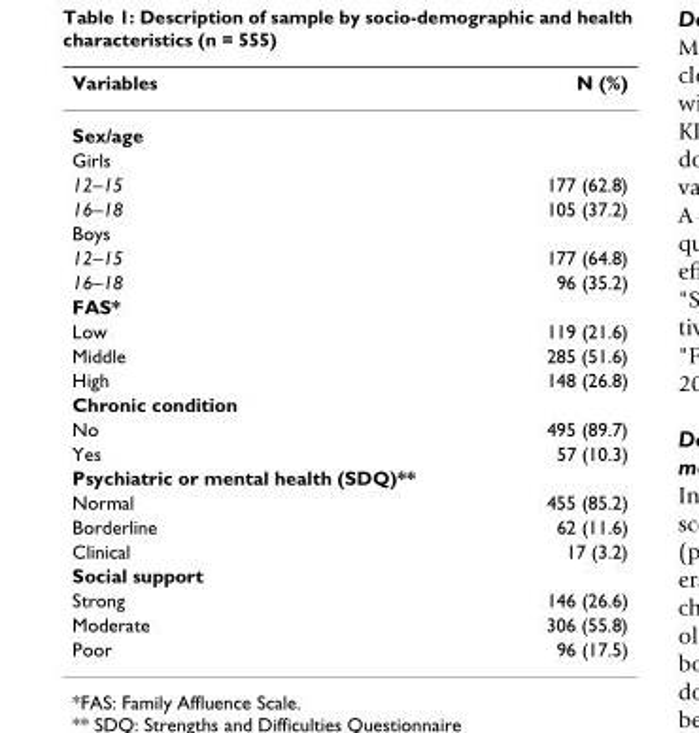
<table><thead><tr><td>Variables</td><td>N (%)</td></tr></thead><tbody><tr><td colspan="2">Sex/age</td></tr><tr><td colspan="2">Girls</td></tr><tr><td>12–15</td><td>177 (62.8)</td></tr><tr><td>16–18</td><td>105 (37.2)</td></tr><tr><td colspan="2">Boys</td></tr><tr><td>12–15</td><td>177 (64.8)</td></tr><tr><td>16–18</td><td>96 (35.2)</td></tr><tr><td colspan="2">FAS*</td></tr><tr><td>Low</td><td>119 (21.6)</td></tr><tr><td>Middle</td><td>285 (51.6)</td></tr><tr><td>High</td><td>148 (26.8)</td></tr><tr><td colspan="2">Chronic condition</td></tr><tr><td>No</td><td>495 (89.7)</td></tr><tr><td>Yes</td><td>57 (10.3)</td></tr><tr><td colspan="2">Psychiatric or mental health (SDQ)**</td></tr><tr><td>Normal</td><td>455 (85.2)</td></tr><tr><td>Borderline</td><td>62 (11.6)</td></tr><tr><td>Clinical</td><td>17 (3.2)</td></tr><tr><td colspan="2">Social support</td></tr><tr><td>Strong</td><td>146 (26.6)</td></tr><tr><td>Moderate</td><td>306 (55.8)</td></tr><tr><td>Poor</td><td>96 (17.5)</td></tr></tbody></table>